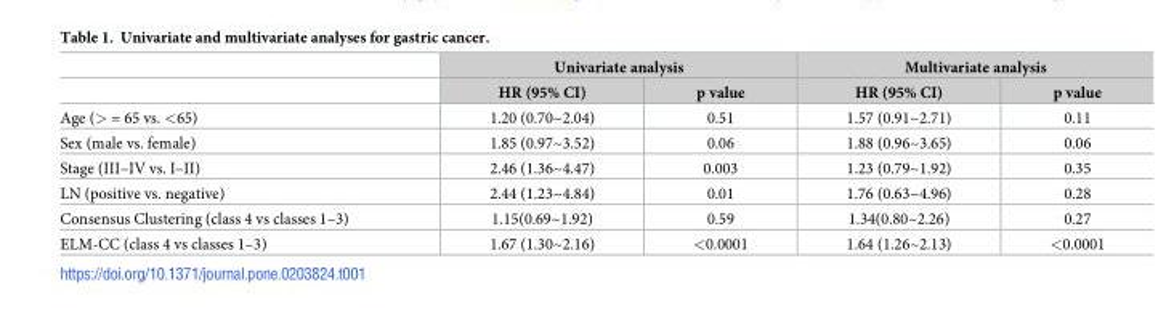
<table><thead><tr><td rowspan="2"></td><td colspan="2">Univariate analysis</td><td colspan="2">Multivariate analysis</td></tr><tr><td>HR (95% CI)</td><td>p value</td><td>HR (95% CI)</td><td>p value</td></tr></thead><tbody><tr><td>Age (&gt; = 65 vs. &lt;65)</td><td>1.20 (0.70~2.04)</td><td>0.51</td><td>1.57 (0.91~2.71)</td><td>0.11</td></tr><tr><td>Sex (male vs. female)</td><td>1.85 (0.97~3.52)</td><td>0.06</td><td>1.88 (0.96~3.65)</td><td>0.06</td></tr><tr><td>Stage (III–IV vs. I–II)</td><td>2.46 (1.36~4.47)</td><td>0.003</td><td>1.23 (0.79~1.92)</td><td>0.35</td></tr><tr><td>LN (positive vs. negative)</td><td>2.44 (1.23~4.84)</td><td>0.01</td><td>1.76 (0.63~4.96)</td><td>0.28</td></tr><tr><td>Consensus Clustering (class 4 vs classes 1–3)</td><td>1.15(0.69~1.92)</td><td>0.59</td><td>1.34(0.80~2.26)</td><td>0.27</td></tr><tr><td>ELM-CC (class 4 vs classes 1–3)</td><td>1.67 (1.30~2.16)</td><td>&lt;0.0001</td><td>1.64 (1.26~2.13)</td><td>&lt;0.0001</td></tr></tbody></table>